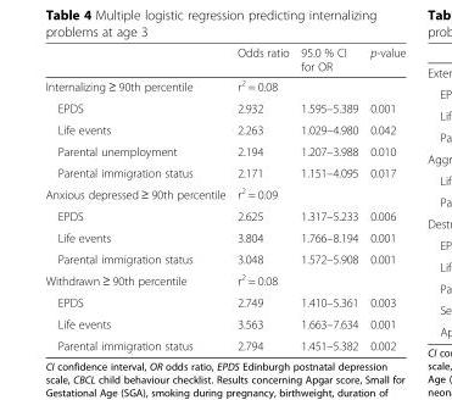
<table><thead><tr><td></td><td>Odds ratio</td><td>95.0 % CI for OR</td><td>p-value</td></tr></thead><tbody><tr><td>Internalizing ≥ 90th percentile</td><td>r<sup>2</sup> = 0.08</td><td></td><td></td></tr><tr><td>EPDS</td><td>2.932</td><td>1.595–5.389</td><td>0.001</td></tr><tr><td>Life events</td><td>2.263</td><td>1.029–4.980</td><td>0.042</td></tr><tr><td>Parental unemployment</td><td>2.194</td><td>1.207–3.988</td><td>0.010</td></tr><tr><td>Parental immigration status</td><td>2.171</td><td>1.151–4.095</td><td>0.017</td></tr><tr><td>Anxious depressed ≥ 90th percentile</td><td>r<sup>2</sup> = 0.09</td><td></td><td></td></tr><tr><td>EPDS</td><td>2.625</td><td>1.317–5.233</td><td>0.006</td></tr><tr><td>Life events</td><td>3.804</td><td>1.766–8.194</td><td>0.001</td></tr><tr><td>Parental immigration status</td><td>3.048</td><td>1.572–5.908</td><td>0.001</td></tr><tr><td>Withdrawn ≥ 90th percentile</td><td>r<sup>2</sup> = 0.08</td><td></td><td></td></tr><tr><td>EPDS</td><td>2.749</td><td>1.410–5.361</td><td>0.003</td></tr><tr><td>Life events</td><td>3.563</td><td>1.663–7.634</td><td>0.001</td></tr><tr><td>Parental immigration status</td><td>2.794</td><td>1.451–5.382</td><td>0.002</td></tr></tbody></table>